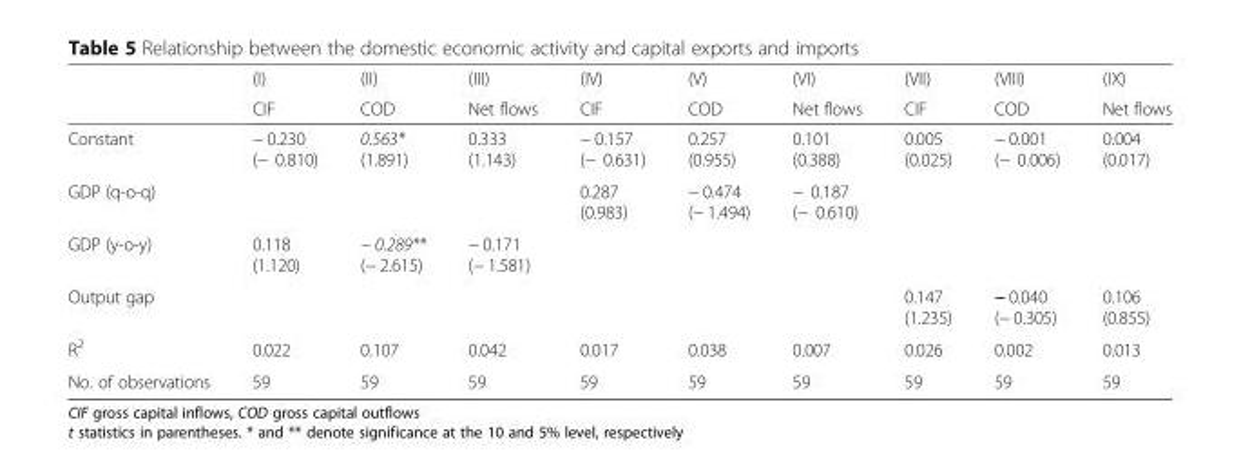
<table><thead><tr><td rowspan="2"></td><td rowspan="2">(I) CIF</td><td rowspan="2">(II) COD</td><td rowspan="2">(III) Net flows</td><td rowspan="2">(IV) CIF</td><td rowspan="2">(V) COD</td><td rowspan="2">(VI) Net flows</td><td rowspan="2">(VII) CIF</td><td rowspan="2">(VIII) COD</td><td rowspan="2">(IX) Net flows</td></tr><tr></tr></thead><tbody><tr><td>Constant</td><td>− 0.230 (− 0.810)</td><td>0.563* (1.891)</td><td>0.333 (1.143)</td><td>− 0.157 (− 0.631)</td><td>0.257 (0.955)</td><td>0.101 (0.388)</td><td>0.005 (0.025)</td><td>− 0.001 (− 0.006)</td><td>0.004 (0.017)</td></tr><tr><td>GDP (q-o-q)</td><td></td><td></td><td></td><td>0.287 (0.983)</td><td>− 0.474 (− 1.494)</td><td>− 0.187 (− 0.610)</td><td></td><td></td><td></td></tr><tr><td>GDP (y-o-y)</td><td>0.118 (1.120)</td><td>− 0.289** (− 2.615)</td><td>− 0.171 (− 1.581)</td><td></td><td></td><td></td><td></td><td></td><td></td></tr><tr><td>Output gap</td><td></td><td></td><td></td><td></td><td></td><td></td><td>0.147 (1.235)</td><td>− 0.040 (− 0.305)</td><td>0.106 (0.855)</td></tr><tr><td>R<sup>2</sup></td><td>0.022</td><td>0.107</td><td>0.042</td><td>0.017</td><td>0.038</td><td>0.007</td><td>0.026</td><td>0.002</td><td>0.013</td></tr><tr><td>No. of observations</td><td>59</td><td>59</td><td>59</td><td>59</td><td>59</td><td>59</td><td>59</td><td>59</td><td>59</td></tr></tbody></table>